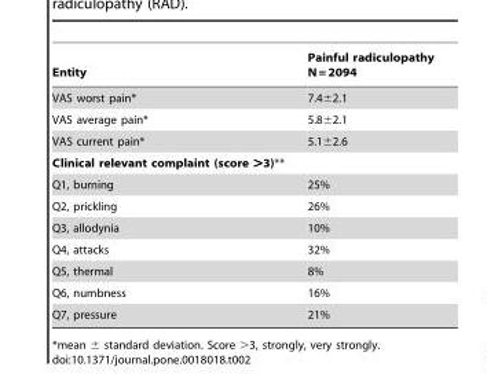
<table><thead><tr><td>Entity</td><td>Painful radiculopathy N = 2094</td></tr></thead><tbody><tr><td>VAS worst pain*</td><td>7.4±2.1</td></tr><tr><td>VAS average pain*</td><td>5.8±2.1</td></tr><tr><td>VAS current pain*</td><td>5.1±2.6</td></tr><tr><td colspan="2">Clinical relevant complaint (score &gt;3)**</td></tr><tr><td>Q1, burning</td><td>25%</td></tr><tr><td>Q2, prickling</td><td>26%</td></tr><tr><td>Q3, allodynia</td><td>10%</td></tr><tr><td>Q4, attacks</td><td>32%</td></tr><tr><td>Q5, thermal</td><td>8%</td></tr><tr><td>Q6, numbness</td><td>16%</td></tr><tr><td>Q7, pressure</td><td>21%</td></tr></tbody></table>